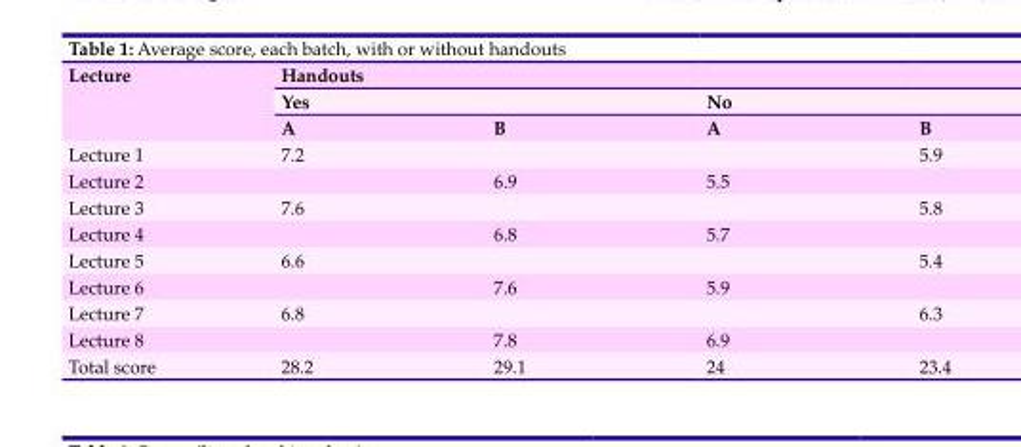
<table><thead><tr><td rowspan="3">Lecture</td><td colspan="4">Handouts</td></tr><tr><td colspan="2">Yes</td><td colspan="2">No</td></tr><tr><td>A</td><td>B</td><td>A</td><td>B</td></tr></thead><tbody><tr><td>Lecture 1</td><td>7.2</td><td></td><td></td><td>5.9</td></tr><tr><td>Lecture 2</td><td></td><td>6.9</td><td>5.5</td><td></td></tr><tr><td>Lecture 3</td><td>7.6</td><td></td><td></td><td>5.8</td></tr><tr><td>Lecture 4</td><td></td><td>6.8</td><td>5.7</td><td></td></tr><tr><td>Lecture 5</td><td>6.6</td><td></td><td></td><td>5.4</td></tr><tr><td>Lecture 6</td><td></td><td>7.6</td><td>5.9</td><td></td></tr><tr><td>Lecture 7</td><td>6.8</td><td></td><td></td><td>6.3</td></tr><tr><td>Lecture 8</td><td></td><td>7.8</td><td>6.9</td><td></td></tr><tr><td>Total score</td><td>28.2</td><td>29.1</td><td>24</td><td>23.4</td></tr></tbody></table>